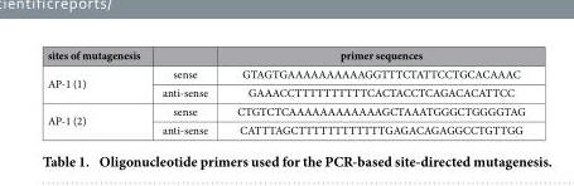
<table><thead><tr><td>sites of mutagenesis</td><td></td><td>primer sequences</td></tr></thead><tbody><tr><td rowspan="2">AP-1 (1)</td><td>sense</td><td>GTAGTGAAAAAAAAAAGGTTTCTATTCCTGCACAAAC</td></tr><tr><td>anti-sense</td><td>GAAACCTTTTTTTTTTCACTACCTCAGACACATTCC</td></tr><tr><td rowspan="2">AP-1 (2)</td><td>sense</td><td>CTGTCTCAAAAAAAAAAAAGCTAAATGGGCTGGGGTAG</td></tr><tr><td>anti-sense</td><td>CATTTAGCTTTTTTTTTTTTGAGACAGAGGCCTGTTGG</td></tr></tbody></table>